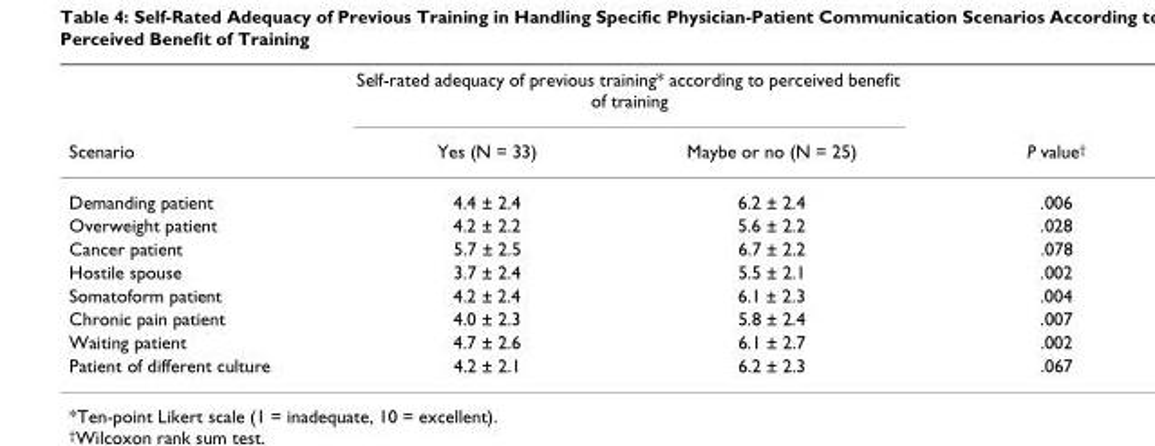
<table><thead><tr><td rowspan="2">Scenario</td><td colspan="2">Self-rated adequacy of previous training* according to perceived benefit of training</td><td rowspan="2">P value†</td></tr><tr><td>Yes (N = 33)</td><td>Maybe or no (N = 25)</td></tr></thead><tbody><tr><td>Demanding patient</td><td>4.4 ± 2.4</td><td>6.2 ± 2.4</td><td>.006</td></tr><tr><td>Overweight patient</td><td>4.2 ± 2.2</td><td>5.6 ± 2.2</td><td>.028</td></tr><tr><td>Cancer patient</td><td>5.7 ± 2.5</td><td>6.7 ± 2.2</td><td>.078</td></tr><tr><td>Hostile spouse</td><td>3.7 ± 2.4</td><td>5.5 ± 2.1</td><td>.002</td></tr><tr><td>Somatoform patient</td><td>4.2 ± 2.4</td><td>6.1 ± 2.3</td><td>.004</td></tr><tr><td>Chronic pain patient</td><td>4.0 ± 2.3</td><td>5.8 ± 2.4</td><td>.007</td></tr><tr><td>Waiting patient</td><td>4.7 ± 2.6</td><td>6.1 ± 2.7</td><td>.002</td></tr><tr><td>Patient of different culture</td><td>4.2 ± 2.1</td><td>6.2 ± 2.3</td><td>.067</td></tr></tbody></table>